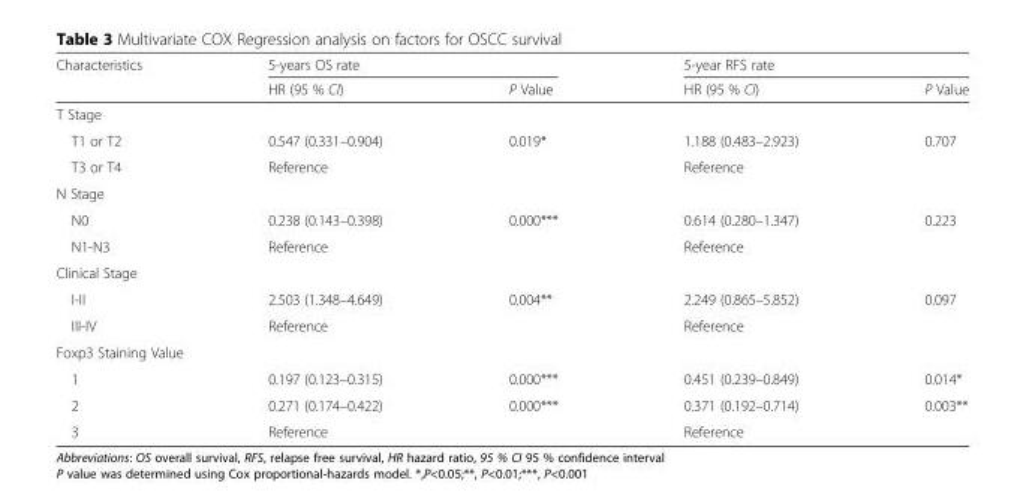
<table><thead><tr><td rowspan="2">Characteristics</td><td colspan="2">5-years OS rate</td><td colspan="2">5-year RFS rate</td></tr><tr><td>HR (95 % CI)</td><td>P Value</td><td>HR (95 % CI)</td><td>P Value</td></tr></thead><tbody><tr><td colspan="5">T Stage</td></tr><tr><td>T1 or T2</td><td>0.547 (0.331–0.904)</td><td>0.019*</td><td>1.188 (0.483–2.923)</td><td>0.707</td></tr><tr><td>T3 or T4</td><td>Reference</td><td></td><td>Reference</td><td></td></tr><tr><td colspan="5">N Stage</td></tr><tr><td>N0</td><td>0.238 (0.143–0.398)</td><td>0.000***</td><td>0.614 (0.280–1.347)</td><td>0.223</td></tr><tr><td>N1-N3</td><td>Reference</td><td></td><td>Reference</td><td></td></tr><tr><td colspan="5">Clinical Stage</td></tr><tr><td>I-II</td><td>2.503 (1.348–4.649)</td><td>0.004**</td><td>2.249 (0.865–5.852)</td><td>0.097</td></tr><tr><td>III-IV</td><td>Reference</td><td></td><td>Reference</td><td></td></tr><tr><td colspan="5">Foxp3 Staining Value</td></tr><tr><td>1</td><td>0.197 (0.123–0.315)</td><td>0.000***</td><td>0.451 (0.239–0.849)</td><td>0.014*</td></tr><tr><td>2</td><td>0.271 (0.174–0.422)</td><td>0.000***</td><td>0.371 (0.192–0.714)</td><td>0.003**</td></tr><tr><td>3</td><td>Reference</td><td></td><td>Reference</td><td></td></tr></tbody></table>